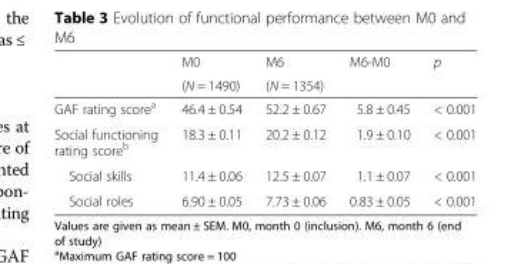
<table><thead><tr><td rowspan="2"></td><td rowspan="2">M0 (N = 1490)</td><td rowspan="2">M6 (N = 1354)</td><td rowspan="2">M6-M0</td><td rowspan="2">p</td></tr><tr></tr></thead><tbody><tr><td>GAF rating score<sup>a</sup></td><td>46.4 ± 0.54</td><td>52.2 ± 0.67</td><td>5.8 ± 0.45</td><td>&lt; 0.001</td></tr><tr><td>Social functioning rating score<sup>b</sup></td><td>18.3 ± 0.11</td><td>20.2 ± 0.12</td><td>1.9 ± 0.10</td><td>&lt; 0.001</td></tr><tr><td>Social skills</td><td>11.4 ± 0.06</td><td>12.5 ± 0.07</td><td>1.1 ± 0.07</td><td>&lt; 0.001</td></tr><tr><td>Social roles</td><td>6.90 ± 0.05</td><td>7.73 ± 0.06</td><td>0.83 ± 0.05</td><td>&lt; 0.001</td></tr></tbody></table>